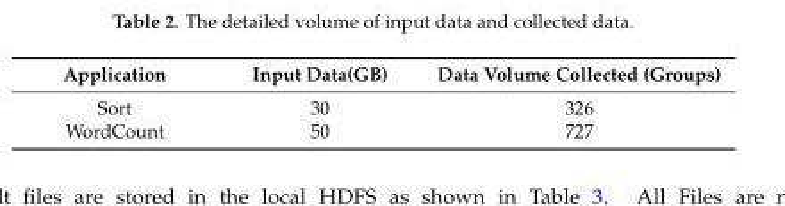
<table><thead><tr><td>Application</td><td>Input Data(GB)</td><td>Data Volume Collected (Groups)</td></tr></thead><tbody><tr><td>Sort</td><td>30</td><td>326</td></tr><tr><td>WordCount</td><td>50</td><td>727</td></tr></tbody></table>